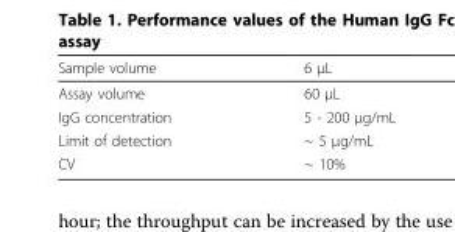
<table><thead><tr><td>Sample volume</td><td>6 μL</td></tr></thead><tbody><tr><td>Assay volume</td><td>60 μL</td></tr><tr><td>IgG concentration</td><td>5 - 200 μg/mL</td></tr><tr><td>Limit of detection</td><td>~ 5 μg/mL</td></tr><tr><td>CV</td><td>~ 10%</td></tr></tbody></table>